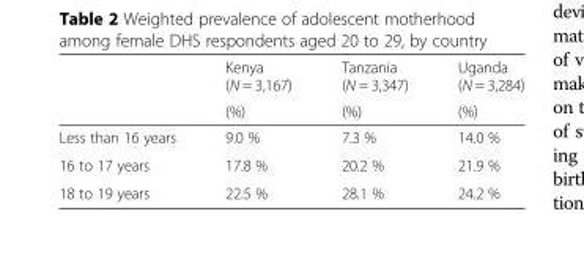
<table><thead><tr><td rowspan="2"></td><td rowspan="2">Kenya (N = 3,167) (%)</td><td rowspan="2">Tanzania (N = 3,347) (%)</td><td rowspan="2">Uganda (N = 3,284) (%)</td></tr><tr></tr></thead><tbody><tr><td>Less than 16 years</td><td>9.0 %</td><td>7.3 %</td><td>14.0 %</td></tr><tr><td>16 to 17 years</td><td>17.8 %</td><td>20.2 %</td><td>21.9 %</td></tr><tr><td>18 to 19 years</td><td>22.5 %</td><td>28.1 %</td><td>24.2 %</td></tr></tbody></table>